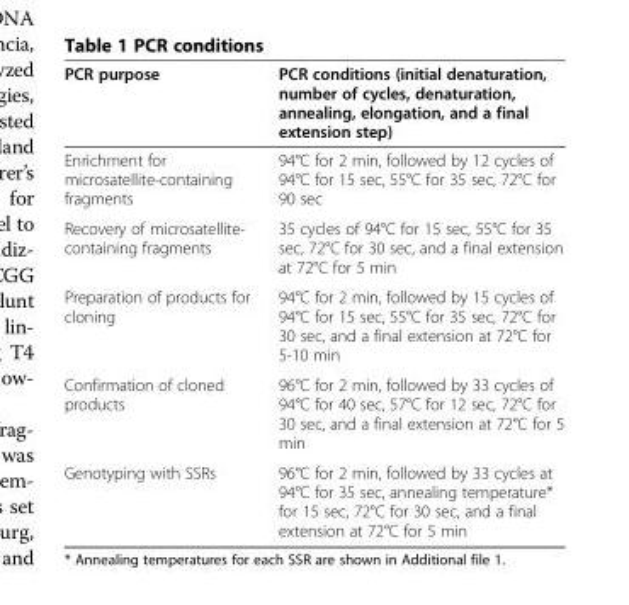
<table><thead><tr><td>PCR purpose</td><td>PCR conditions (initial denaturation, number of cycles, denaturation, annealing, elongation, and a final extension step)</td></tr></thead><tbody><tr><td>Enrichment for microsatellite-containing fragments</td><td>94°C for 2 min, followed by 12 cycles of 94°C for 15 sec, 55°C for 35 sec, 72°C for 90 sec</td></tr><tr><td>Recovery of microsatellite- containing fragments</td><td>35 cycles of 94°C for 15 sec, 55°C for 35 sec, 72°C for 30 sec, and a final extension at 72°C for 5 min</td></tr><tr><td>Preparation of products for cloning</td><td>94°C for 2 min, followed by 15 cycles of 94°C for 15 sec, 55°C for 35 sec, 72°C for 30 sec, and a final extension at 72°C for 5-10 min</td></tr><tr><td>Confirmation of cloned products</td><td>96°C for 2 min, followed by 33 cycles of 94°C for 40 sec, 57°C for 12 sec, 72°C for 30 sec, and a final extension at 72°C for 5 min</td></tr><tr><td>Genotyping with SSRs</td><td>96°C for 2 min, followed by 33 cycles at 94°C for 35 sec, annealing temperature* for 15 sec, 72°C for 30 sec, and a final extension at 72°C for 5 min</td></tr></tbody></table>